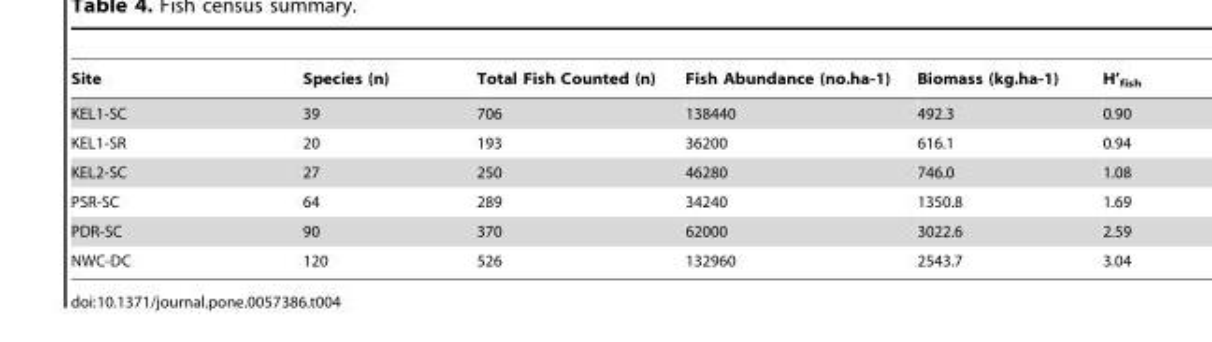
<table><thead><tr><td>Site</td><td>Species (n)</td><td>Total Fish Counted (n)</td><td>Fish Abundance (no.ha-1)</td><td>Biomass (kg.ha-1)</td><td>H’<sub>fish</sub></td></tr></thead><tbody><tr><td>KEL1-SC</td><td>39</td><td>706</td><td>138440</td><td>492.3</td><td>0.90</td></tr><tr><td>KEL1-SR</td><td>20</td><td>193</td><td>36200</td><td>616.1</td><td>0.94</td></tr><tr><td>KEL2-SC</td><td>27</td><td>250</td><td>46280</td><td>746.0</td><td>1.08</td></tr><tr><td>PSR-SC</td><td>64</td><td>289</td><td>34240</td><td>1350.8</td><td>1.69</td></tr><tr><td>PDR-SC</td><td>90</td><td>370</td><td>62000</td><td>3022.6</td><td>2.59</td></tr><tr><td>NWC-DC</td><td>120</td><td>526</td><td>132960</td><td>2543.7</td><td>3.04</td></tr></tbody></table>